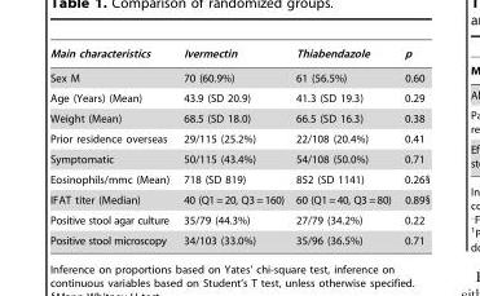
<table><thead><tr><td>Main characteristics</td><td>Ivermectin</td><td>Thiabendazole</td><td>p</td></tr></thead><tbody><tr><td>Sex M</td><td>70 (60.9%)</td><td>61 (56.5%)</td><td>0.60</td></tr><tr><td>Age (Years) (Mean)</td><td>43.9 (SD 20.9)</td><td>41.3 (SD 19.3)</td><td>0.29</td></tr><tr><td>Weight (Mean)</td><td>68.5 (SD 18.0)</td><td>66.5 (SD 16.3)</td><td>0.38</td></tr><tr><td>Prior residence overseas</td><td>29/115 (25.2%)</td><td>22/108 (20.4%)</td><td>0.41</td></tr><tr><td>Symptomatic</td><td>50/115 (43.4%)</td><td>54/108 (50.0%)</td><td>0.71</td></tr><tr><td>Eosinophils/mmc (Mean)</td><td>718 (SD 819)</td><td>852 (SD 1141)</td><td>0.26§</td></tr><tr><td>IFAT titer (Median)</td><td>40 (Q1=20, Q3=160)</td><td>60 (Q1=40, Q3=80)</td><td>0.89§</td></tr><tr><td>Positive stool agar culture</td><td>35/79 (44.3%)</td><td>27/79 (34.2%)</td><td>0.22</td></tr><tr><td>Positive stool microscopy</td><td>34/103 (33.0%)</td><td>35/96 (36.5%)</td><td>0.71</td></tr></tbody></table>